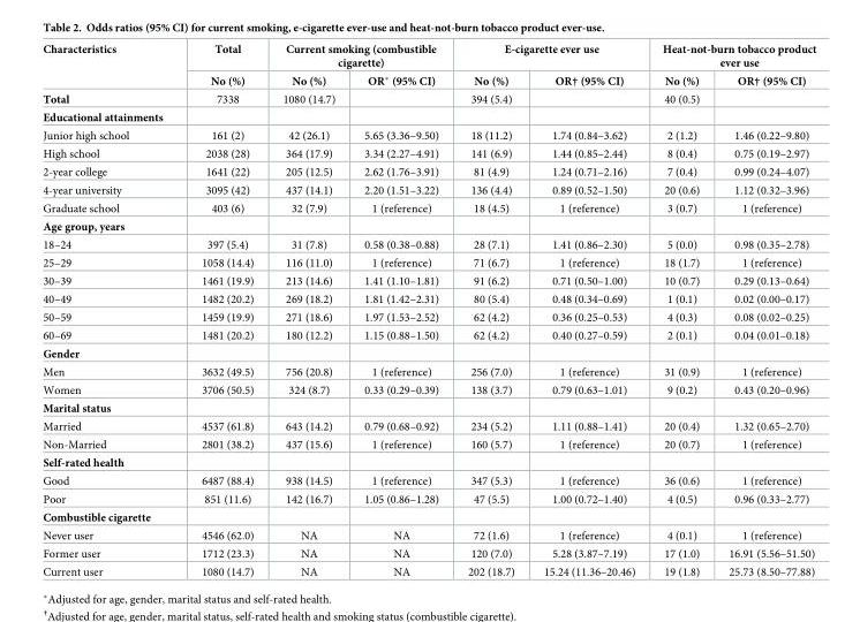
<table><thead><tr><td rowspan="2">Characteristics</td><td rowspan="2">Total No (%)</td><td colspan="2">Current smoking (combustible cigarette)</td><td colspan="2">E-cigarette ever use</td><td colspan="2">Heat-not-burn tobacco product ever use</td></tr><tr><td>No (%)</td><td>OR* (95% CI)</td><td>No (%)</td><td>OR† (95% CI)</td><td>No (%)</td><td>OR† (95% CI)</td></tr></thead><tbody><tr><td>Total</td><td>7338</td><td>1080 (14.7)</td><td></td><td>394 (5.4)</td><td></td><td>40 (0.5)</td><td></td></tr><tr><td colspan="8">Educational attainments</td></tr><tr><td>Junior high school</td><td>161 (2)</td><td>42 (26.1)</td><td>5.65 (3.36–9.50)</td><td>18 (11.2)</td><td>1.74 (0.84–3.62)</td><td>2 (1.2)</td><td>1.46 (0.22–9.80)</td></tr><tr><td>High school</td><td>2038 (28)</td><td>364 (17.9)</td><td>3.34 (2.27–4.91)</td><td>141 (6.9)</td><td>1.44 (0.85–2.44)</td><td>8 (0.4)</td><td>0.75 (0.19–2.97)</td></tr><tr><td>2-year college</td><td>1641 (22)</td><td>205 (12.5)</td><td>2.62 (1.76–3.91)</td><td>81 (4.9)</td><td>1.24 (0.71–2.16)</td><td>7 (0.4)</td><td>0.99 (0.24–4.07)</td></tr><tr><td>4-year university</td><td>3095 (42)</td><td>437 (14.1)</td><td>2.20 (1.51–3.22)</td><td>136 (4.4)</td><td>0.89 (0.52–1.50)</td><td>20 (0.6)</td><td>1.12 (0.32–3.96)</td></tr><tr><td>Graduate school</td><td>403 (6)</td><td>32 (7.9)</td><td>1 (reference)</td><td>18 (4.5)</td><td>1 (reference)</td><td>3 (0.7)</td><td>1 (reference)</td></tr><tr><td colspan="8">Age group, years</td></tr><tr><td>18–24</td><td>397 (5.4)</td><td>31 (7.8)</td><td>0.58 (0.38–0.88)</td><td>28 (7.1)</td><td>1.41 (0.86–2.30)</td><td>5 (0.0)</td><td>0.98 (0.35–2.78)</td></tr><tr><td>25–29</td><td>1058 (14.4)</td><td>116 (11.0)</td><td>1 (reference)</td><td>71 (6.7)</td><td>1 (reference)</td><td>18 (1.7)</td><td>1 (reference)</td></tr><tr><td>30–39</td><td>1461 (19.9)</td><td>213 (14.6)</td><td>1.41 (1.10–1.81)</td><td>91 (6.2)</td><td>0.71 (0.50–1.00)</td><td>10 (0.7)</td><td>0.29 (0.13–0.64)</td></tr><tr><td>40–49</td><td>1482 (20.2)</td><td>269 (18.2)</td><td>1.81 (1.42–2.31)</td><td>80 (5.4)</td><td>0.48 (0.34–0.69)</td><td>1 (0.1)</td><td>0.02 (0.00–0.17)</td></tr><tr><td>50–59</td><td>1459 (19.9)</td><td>271 (18.6)</td><td>1.97 (1.53–2.52)</td><td>62 (4.2)</td><td>0.36 (0.25–0.53)</td><td>4 (0.3)</td><td>0.08 (0.02–0.25)</td></tr><tr><td>60–69</td><td>1481 (20.2)</td><td>180 (12.2)</td><td>1.15 (0.88–1.50)</td><td>62 (4.2)</td><td>0.40 (0.27–0.59)</td><td>2 (0.1)</td><td>0.04 (0.01–0.18)</td></tr><tr><td colspan="8">Gender</td></tr><tr><td>Men</td><td>3632 (49.5)</td><td>756 (20.8)</td><td>1 (reference)</td><td>256 (7.0)</td><td>1 (reference)</td><td>31 (0.9)</td><td>1 (reference)</td></tr><tr><td>Women</td><td>3706 (50.5)</td><td>324 (8.7)</td><td>0.33 (0.29–0.39)</td><td>138 (3.7)</td><td>0.79 (0.63–1.01)</td><td>9 (0.2)</td><td>0.43 (0.20–0.96)</td></tr><tr><td colspan="8">Marital status</td></tr><tr><td>Married</td><td>4537 (61.8)</td><td>643 (14.2)</td><td>0.79 (0.68–0.92)</td><td>234 (5.2)</td><td>1.11 (0.88–1.41)</td><td>20 (0.4)</td><td>1.32 (0.65–2.70)</td></tr><tr><td>Non-Married</td><td>2801 (38.2)</td><td>437 (15.6)</td><td>1 (reference)</td><td>160 (5.7)</td><td>1 (reference)</td><td>20 (0.7)</td><td>1 (reference)</td></tr><tr><td colspan="8">Self-rated health</td></tr><tr><td>Good</td><td>6487 (88.4)</td><td>938 (14.5)</td><td>1 (reference)</td><td>347 (5.3)</td><td>1 (reference)</td><td>36 (0.6)</td><td>1 (reference)</td></tr><tr><td>Poor</td><td>851 (11.6)</td><td>142 (16.7)</td><td>1.05 (0.86–1.28)</td><td>47 (5.5)</td><td>1.00 (0.72–1.40)</td><td>4 (0.5)</td><td>0.96 (0.33–2.77)</td></tr><tr><td colspan="8">Combustible cigarette</td></tr><tr><td>Never user</td><td>4546 (62.0)</td><td>NA</td><td>NA</td><td>72 (1.6)</td><td>1 (reference)</td><td>4 (0.1)</td><td>1 (reference)</td></tr><tr><td>Former user</td><td>1712 (23.3)</td><td>NA</td><td>NA</td><td>120 (7.0)</td><td>5.28 (3.87–7.19)</td><td>17 (1.0)</td><td>16.91 (5.56–51.50)</td></tr><tr><td>Current user</td><td>1080 (14.7)</td><td>NA</td><td>NA</td><td>202 (18.7)</td><td>15.24 (11.36–20.46)</td><td>19 (1.8)</td><td>25.73 (8.50–77.88)</td></tr></tbody></table>